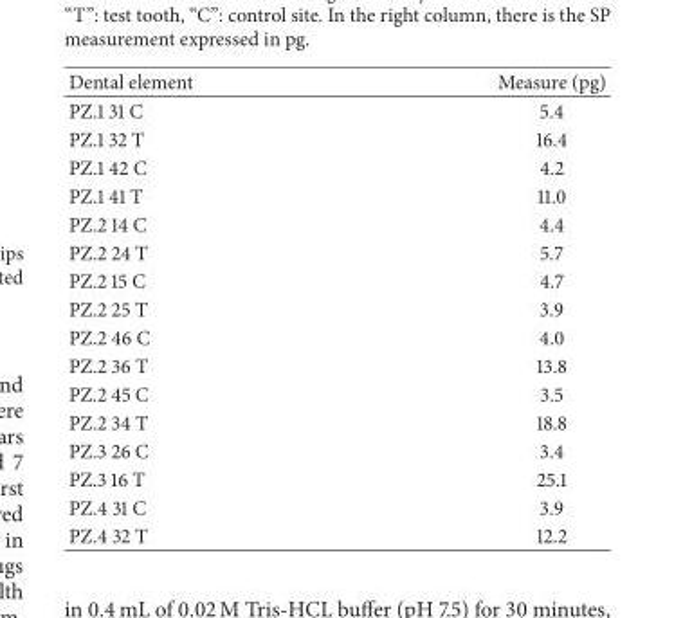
<table><thead><tr><td>Dental element</td><td>Measure (pg)</td></tr></thead><tbody><tr><td>PZ.1 31 C</td><td>5.4</td></tr><tr><td>PZ.1 32 T</td><td>16.4</td></tr><tr><td>PZ.1 42 C</td><td>4.2</td></tr><tr><td>PZ.1 41 T</td><td>11.0</td></tr><tr><td>PZ.2 14 C</td><td>4.4</td></tr><tr><td>PZ.2 24 T</td><td>5.7</td></tr><tr><td>PZ.2 15 C</td><td>4.7</td></tr><tr><td>PZ.2 25 T</td><td>3.9</td></tr><tr><td>PZ.2 46 C</td><td>4.0</td></tr><tr><td>PZ.2 36 T</td><td>13.8</td></tr><tr><td>PZ.2 45 C</td><td>3.5</td></tr><tr><td>PZ.2 34 T</td><td>18.8</td></tr><tr><td>PZ.3 26 C</td><td>3.4</td></tr><tr><td>PZ.3 16 T</td><td>25.1</td></tr><tr><td>PZ.4 31 C</td><td>3.9</td></tr><tr><td>PZ.4 32 T</td><td>12.2</td></tr></tbody></table>